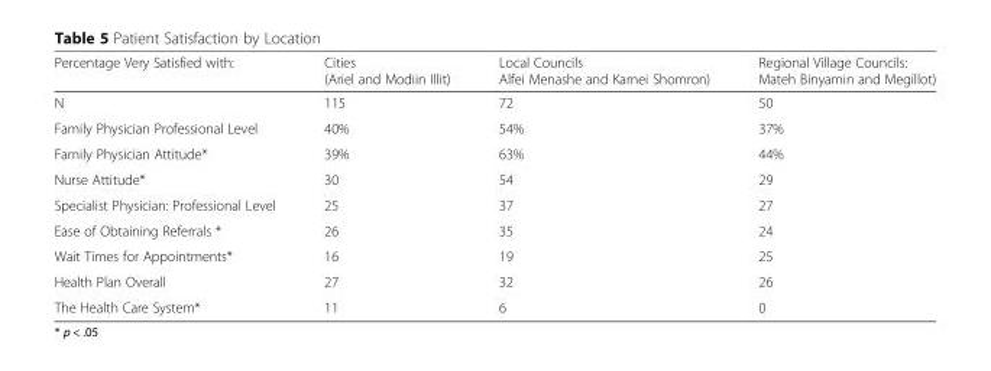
<table><thead><tr><td>Percentage Very Satisfied with:</td><td>Cities (Ariel and Modiin Illit)</td><td>Local Councils Alfei Menashe and Karnei Shomron)</td><td>Regional Village Councils: Mateh Binyamin and Megillot)</td></tr></thead><tbody><tr><td>N</td><td>115</td><td>72</td><td>50</td></tr><tr><td>Family Physician Professional Level</td><td>40%</td><td>54%</td><td>37%</td></tr><tr><td>Family Physician Attitude*</td><td>39%</td><td>63%</td><td>44%</td></tr><tr><td>Nurse Attitude*</td><td>30</td><td>54</td><td>29</td></tr><tr><td>Specialist Physician: Professional Level</td><td>25</td><td>37</td><td>27</td></tr><tr><td>Ease of Obtaining Referrals *</td><td>26</td><td>35</td><td>24</td></tr><tr><td>Wait Times for Appointments*</td><td>16</td><td>19</td><td>25</td></tr><tr><td>Health Plan Overall</td><td>27</td><td>32</td><td>26</td></tr><tr><td>The Health Care System*</td><td>11</td><td>6</td><td>0</td></tr></tbody></table>